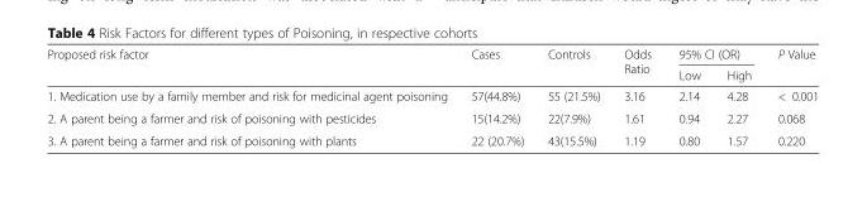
<table><thead><tr><td rowspan="2">Proposed risk factor</td><td rowspan="2">Cases</td><td rowspan="2">Controls</td><td rowspan="2">Odds Ratio</td><td colspan="2">95% CI (OR)</td><td rowspan="2">P Value</td></tr><tr><td>Low</td><td>High</td></tr></thead><tbody><tr><td>1. Medication use by a family member and risk for medicinal agent poisoning</td><td>57(44.8%)</td><td>55 (21.5%)</td><td>3.16</td><td>2.14</td><td>4.28</td><td>&lt; 0.001</td></tr><tr><td>2. A parent being a farmer and risk of poisoning with pesticides</td><td>15(14.2%)</td><td>22(7.9%)</td><td>1.61</td><td>0.94</td><td>2.27</td><td>0.068</td></tr><tr><td>3. A parent being a farmer and risk of poisoning with plants</td><td>22 (20.7%)</td><td>43(15.5%)</td><td>1.19</td><td>0.80</td><td>1.57</td><td>0.220</td></tr></tbody></table>